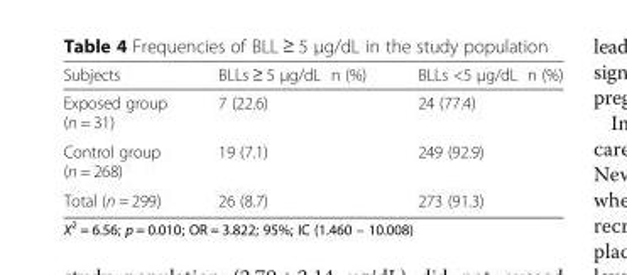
<table><thead><tr><td>Subjects</td><td>BLLs ≥ 5 μg/dL n (%)</td><td>BLLs &lt;5 μg/dL n (%)</td></tr></thead><tbody><tr><td>Exposed group (n = 31)</td><td>7 (22.6)</td><td>24 (77.4)</td></tr><tr><td>Control group (n = 268)</td><td>19 (7.1)</td><td>249 (92.9)</td></tr><tr><td>Total (n = 299)</td><td>26 (8.7)</td><td>273 (91.3)</td></tr></tbody></table>